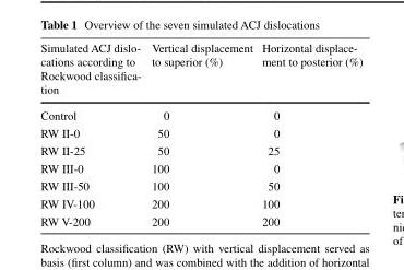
<table><thead><tr><td>Simulated ACJ dislo- cations according to Rockwood classifica- tion</td><td>Vertical displacement to superior (%)</td><td>Horizontal displace- ment to posterior (%)</td></tr></thead><tbody><tr><td>Control</td><td>0</td><td>0</td></tr><tr><td>RW II-0</td><td>50</td><td>0</td></tr><tr><td>RW II-25</td><td>50</td><td>25</td></tr><tr><td>RW III-0</td><td>100</td><td>0</td></tr><tr><td>RW III-50</td><td>100</td><td>50</td></tr><tr><td>RW IV-100</td><td>200</td><td>100</td></tr><tr><td>RW V-200</td><td>200</td><td>200</td></tr></tbody></table>